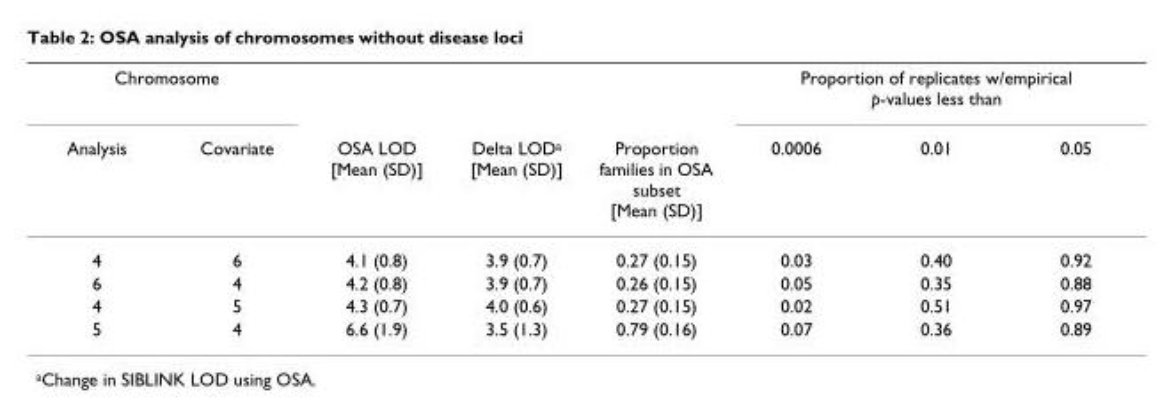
<table><thead><tr><td colspan="2">Chromosome</td><td rowspan="2">OSA LOD [Mean (SD)]</td><td rowspan="2">Delta LODa [Mean (SD)]</td><td rowspan="2">Proportion families in OSA subset [Mean (SD)]</td><td colspan="3">Proportion of replicates w/empirical p-values less than</td></tr><tr><td>Analysis</td><td>Covariate</td><td>0.0006</td><td>0.01</td><td>0.05</td></tr></thead><tbody><tr><td>4</td><td>6</td><td>4.1 (0.8)</td><td>3.9 (0.7)</td><td>0.27 (0.15)</td><td>0.03</td><td>0.40</td><td>0.92</td></tr><tr><td>6</td><td>4</td><td>4.2 (0.8)</td><td>3.9 (0.7)</td><td>0.26 (0.15)</td><td>0.05</td><td>0.35</td><td>0.88</td></tr><tr><td>4</td><td>5</td><td>4.3 (0.7)</td><td>4.0 (0.6)</td><td>0.27 (0.15)</td><td>0.02</td><td>0.51</td><td>0.97</td></tr><tr><td>5</td><td>4</td><td>6.6 (1.9)</td><td>3.5 (1.3)</td><td>0.79 (0.16)</td><td>0.07</td><td>0.36</td><td>0.89</td></tr></tbody></table>